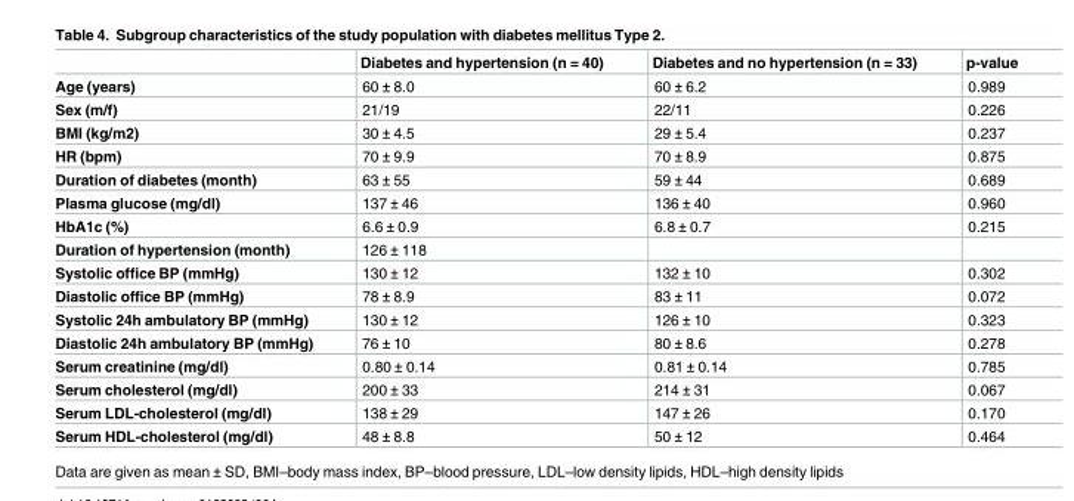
<table><thead><tr><td></td><td>Diabetes and hypertension (n = 40)</td><td>Diabetes and no hypertension (n = 33)</td><td>p-value</td></tr></thead><tbody><tr><td>Age (years)</td><td>60 ± 8.0</td><td>60 ± 6.2</td><td>0.989</td></tr><tr><td>Sex (m/f)</td><td>21/19</td><td>22/11</td><td>0.226</td></tr><tr><td>BMI (kg/m2)</td><td>30 ± 4.5</td><td>29 ± 5.4</td><td>0.237</td></tr><tr><td>HR (bpm)</td><td>70 ± 9.9</td><td>70 ± 8.9</td><td>0.875</td></tr><tr><td>Duration of diabetes (month)</td><td>63 ± 55</td><td>59 ± 44</td><td>0.689</td></tr><tr><td>Plasma glucose (mg/dl)</td><td>137 ± 46</td><td>136 ± 40</td><td>0.960</td></tr><tr><td>HbA1c (%)</td><td>6.6 ± 0.9</td><td>6.8 ± 0.7</td><td>0.215</td></tr><tr><td>Duration of hypertension (month)</td><td>126 ± 118</td><td></td><td></td></tr><tr><td>Systolic office BP (mmHg)</td><td>130 ± 12</td><td>132 ± 10</td><td>0.302</td></tr><tr><td>Diastolic office BP (mmHg)</td><td>78 ± 8.9</td><td>83 ± 11</td><td>0.072</td></tr><tr><td>Systolic 24h ambulatory BP (mmHg)</td><td>130 ± 12</td><td>126 ± 10</td><td>0.323</td></tr><tr><td>Diastolic 24h ambulatory BP (mmHg)</td><td>76 ± 10</td><td>80 ± 8.6</td><td>0.278</td></tr><tr><td>Serum creatinine (mg/dl)</td><td>0.80 ± 0.14</td><td>0.81 ± 0.14</td><td>0.785</td></tr><tr><td>Serum cholesterol (mg/dl)</td><td>200 ± 33</td><td>214 ± 31</td><td>0.067</td></tr><tr><td>Serum LDL-cholesterol (mg/dl)</td><td>138 ± 29</td><td>147 ± 26</td><td>0.170</td></tr><tr><td>Serum HDL-cholesterol (mg/dl)</td><td>48 ± 8.8</td><td>50 ± 12</td><td>0.464</td></tr></tbody></table>